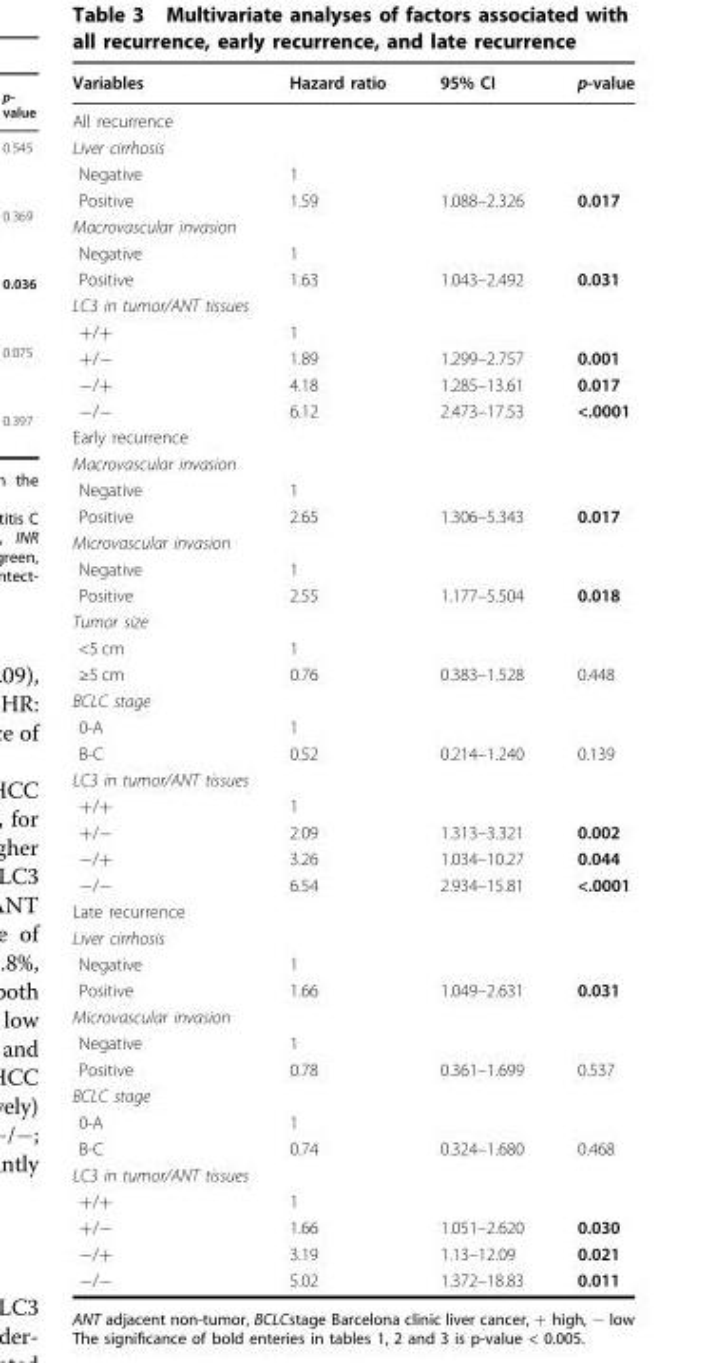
<table><thead><tr><td>Variables</td><td>Hazard ratio</td><td>95% CI</td><td>p-value</td></tr></thead><tbody><tr><td colspan="4">All recurrence</td></tr><tr><td colspan="4">Liver cirrhosis</td></tr><tr><td>Negative</td><td>1</td><td></td><td></td></tr><tr><td>Positive</td><td>1.59</td><td>1.088–2.326</td><td>0.017</td></tr><tr><td colspan="4">Macrovascular invasion</td></tr><tr><td>Negative</td><td>1</td><td></td><td></td></tr><tr><td>Positive</td><td>1.63</td><td>1.043–2.492</td><td>0.031</td></tr><tr><td colspan="4">LC3 in tumor/ANT tissues</td></tr><tr><td>+/+</td><td>1</td><td></td><td></td></tr><tr><td>+/−</td><td>1.89</td><td>1.299–2.757</td><td>0.001</td></tr><tr><td>−/+</td><td>4.18</td><td>1.285–13.61</td><td>0.017</td></tr><tr><td>−/−</td><td>6.12</td><td>2.473–17.53</td><td>&lt;.0001</td></tr><tr><td colspan="4">Early recurrence</td></tr><tr><td colspan="4">Macrovascular invasion</td></tr><tr><td>Negative</td><td>1</td><td></td><td></td></tr><tr><td>Positive</td><td>2.65</td><td>1.306–5.343</td><td>0.017</td></tr><tr><td colspan="4">Microvascular invasion</td></tr><tr><td>Negative</td><td>1</td><td></td><td></td></tr><tr><td>Positive</td><td>2.55</td><td>1.177–5.504</td><td>0.018</td></tr><tr><td colspan="4">Tumor size</td></tr><tr><td>&lt;5 cm</td><td>1</td><td></td><td></td></tr><tr><td>≥5 cm</td><td>0.76</td><td>0.383–1.528</td><td>0.448</td></tr><tr><td colspan="4">BCLC stage</td></tr><tr><td>0-A</td><td>1</td><td></td><td></td></tr><tr><td>B-C</td><td>0.52</td><td>0.214–1.240</td><td>0.139</td></tr><tr><td colspan="4">LC3 in tumor/ANT tissues</td></tr><tr><td>+/+</td><td>1</td><td></td><td></td></tr><tr><td>+/−</td><td>2.09</td><td>1.313–3.321</td><td>0.002</td></tr><tr><td>−/+</td><td>3.26</td><td>1.034–10.27</td><td>0.044</td></tr><tr><td>−/−</td><td>6.54</td><td>2.934–15.81</td><td>&lt;.0001</td></tr><tr><td colspan="4">Late recurrence</td></tr><tr><td colspan="4">Liver cirrhosis</td></tr><tr><td>Negative</td><td>1</td><td></td><td></td></tr><tr><td>Positive</td><td>1.66</td><td>1.049–2.631</td><td>0.031</td></tr><tr><td colspan="4">Microvascular invasion</td></tr><tr><td>Negative</td><td>1</td><td></td><td></td></tr><tr><td>Positive</td><td>0.78</td><td>0.361–1.699</td><td>0.537</td></tr><tr><td colspan="4">BCLC stage</td></tr><tr><td>0-A</td><td>1</td><td></td><td></td></tr><tr><td>B-C</td><td>0.74</td><td>0.324–1.680</td><td>0.468</td></tr><tr><td colspan="4">LC3 in tumor/ANT tissues</td></tr><tr><td>+/+</td><td>1</td><td></td><td></td></tr><tr><td>+/−</td><td>1.66</td><td>1.051–2.620</td><td>0.030</td></tr><tr><td>−/+</td><td>3.19</td><td>1.13–12.09</td><td>0.021</td></tr><tr><td>−/−</td><td>5.02</td><td>1.372–18.83</td><td>0.011</td></tr></tbody></table>